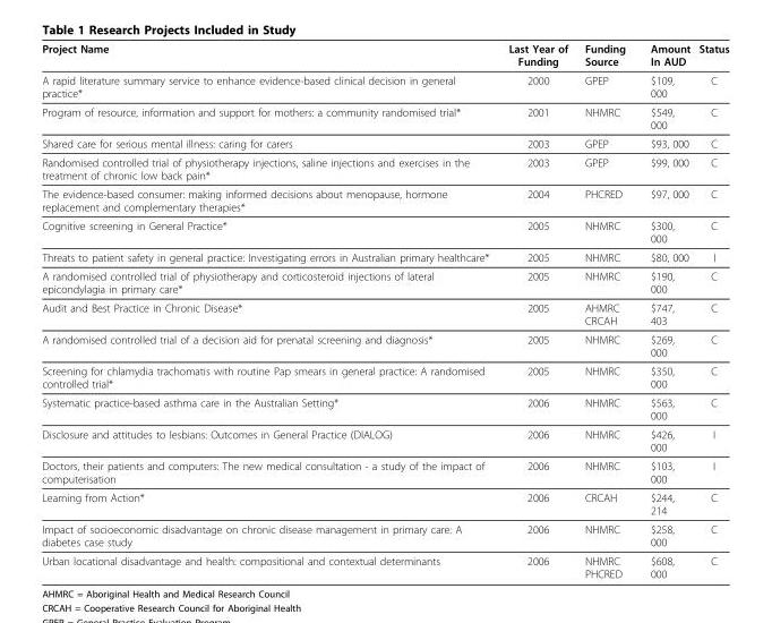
<table><thead><tr><td>Project Name</td><td>Last Year of Funding</td><td>Funding Source</td><td>Amount In AUD</td><td>Status</td></tr></thead><tbody><tr><td>A rapid literature summary service to enhance evidence-based clinical decision in general practice*</td><td>2000</td><td>GPEP</td><td>$109, 000</td><td>C</td></tr><tr><td>Program of resource, information and support for mothers: a community randomised trial*</td><td>2001</td><td>NHMRC</td><td>$549, 000</td><td>C</td></tr><tr><td>Shared care for serious mental illness: caring for carers</td><td>2003</td><td>GPEP</td><td>$93, 000</td><td>C</td></tr><tr><td>Randomised controlled trial of physiotherapy injections, saline injections and exercises in the treatment of chronic low back pain*</td><td>2003</td><td>GPEP</td><td>$99, 000</td><td>C</td></tr><tr><td>The evidence-based consumer: making informed decisions about menopause, hormone replacement and complementary therapies*</td><td>2004</td><td>PHCRED</td><td>$97, 000</td><td>C</td></tr><tr><td>Cognitive screening in General Practice*</td><td>2005</td><td>NHMRC</td><td>$300, 000</td><td>C</td></tr><tr><td>Threats to patient safety in general practice: Investigating errors in Australian primary healthcare*</td><td>2005</td><td>NHMRC</td><td>$80, 000</td><td>I</td></tr><tr><td>A randomised controlled trial of physiotherapy and corticosteroid injections of lateral epicondylagia in primary care*</td><td>2005</td><td>NHMRC</td><td>$190, 000</td><td>C</td></tr><tr><td>Audit and Best Practice in Chronic Disease*</td><td>2005</td><td>AHMRC CRCAH</td><td>$747, 403</td><td>C</td></tr><tr><td>A randomised controlled trial of a decision aid for prenatal screening and diagnosis*</td><td>2005</td><td>NHMRC</td><td>$269, 000</td><td>C</td></tr><tr><td>Screening for chlamydia trachomatis with routine Pap smears in general practice: A randomised controlled trial*</td><td>2005</td><td>NHMRC</td><td>$350, 000</td><td>C</td></tr><tr><td>Systematic practice-based asthma care in the Australian Setting*</td><td>2006</td><td>NHMRC</td><td>$563, 000</td><td>C</td></tr><tr><td>Disclosure and attitudes to lesbians: Outcomes in General Practice (DIALOG)</td><td>2006</td><td>NHMRC</td><td>$426, 000</td><td>I</td></tr><tr><td>Doctors, their patients and computers: The new medical consultation - a study of the impact of computerisation</td><td>2006</td><td>NHMRC</td><td>$103, 000</td><td>I</td></tr><tr><td>Learning from Action*</td><td>2006</td><td>CRCAH</td><td>$244, 214</td><td>C</td></tr><tr><td>Impact of socioeconomic disadvantage on chronic disease management in primary care: A diabetes case study</td><td>2006</td><td>NHMRC</td><td>$258, 000</td><td>C</td></tr><tr><td>Urban locational disadvantage and health: compositional and contextual determinants</td><td>2006</td><td>NHMRC PHCRED</td><td>$608, 000</td><td>C</td></tr></tbody></table>